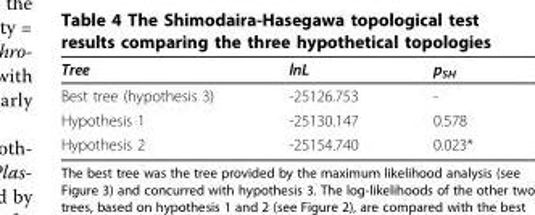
<table><thead><tr><td>Tree</td><td>lnL</td><td>p<sub>SH</sub></td></tr></thead><tbody><tr><td>Best tree (hypothesis 3)</td><td>-25126.753</td><td>-</td></tr><tr><td>Hypothesis 1</td><td>-25130.147</td><td>0.578</td></tr><tr><td>Hypothesis 2</td><td>-25154.740</td><td>0.023*</td></tr></tbody></table>